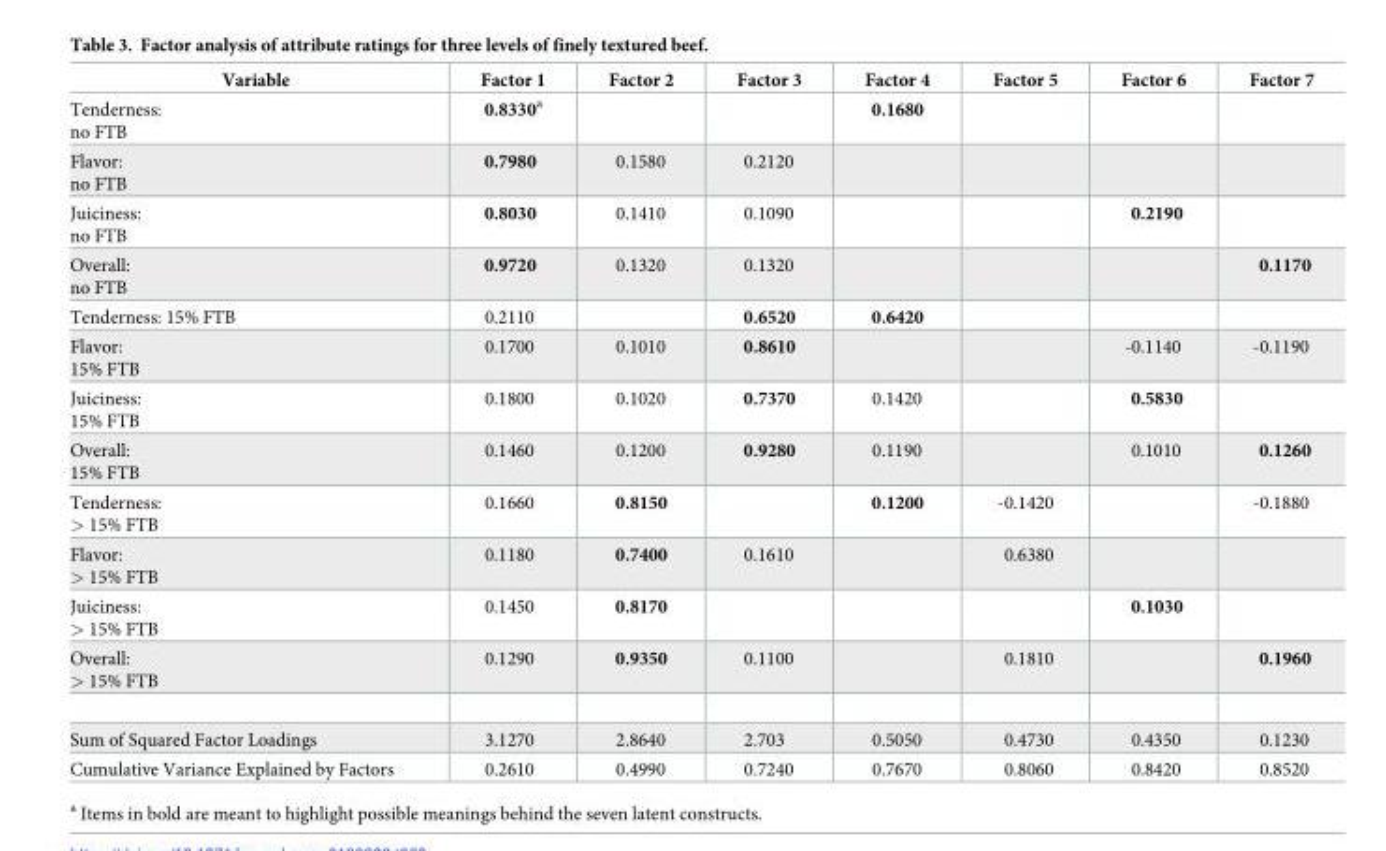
<table><thead><tr><td>Variable</td><td>Factor 1</td><td>Factor 2</td><td>Factor 3</td><td>Factor 4</td><td>Factor 5</td><td>Factor 6</td><td>Factor 7</td></tr></thead><tbody><tr><td>Tenderness: no FTB</td><td>0.8330<sup>a</sup></td><td></td><td></td><td>0.1680</td><td></td><td></td><td></td></tr><tr><td>Flavor: no FTB</td><td>0.7980</td><td>0.1580</td><td>0.2120</td><td></td><td></td><td></td><td></td></tr><tr><td>Juiciness: no FTB</td><td>0.8030</td><td>0.1410</td><td>0.1090</td><td></td><td></td><td>0.2190</td><td></td></tr><tr><td>Overall: no FTB</td><td>0.9720</td><td>0.1320</td><td>0.1320</td><td></td><td></td><td></td><td>0.1170</td></tr><tr><td>Tenderness: 15% FTB</td><td>0.2110</td><td></td><td>0.6520</td><td>0.6420</td><td></td><td></td><td></td></tr><tr><td>Flavor: 15% FTB</td><td>0.1700</td><td>0.1010</td><td>0.8610</td><td></td><td></td><td>-0.1140</td><td>-0.1190</td></tr><tr><td>Juiciness: 15% FTB</td><td>0.1800</td><td>0.1020</td><td>0.7370</td><td>0.1420</td><td></td><td>0.5830</td><td></td></tr><tr><td>Overall: 15% FTB</td><td>0.1460</td><td>0.1200</td><td>0.9280</td><td>0.1190</td><td></td><td>0.1010</td><td>0.1260</td></tr><tr><td>Tenderness: &gt; 15% FTB</td><td>0.1660</td><td>0.8150</td><td></td><td>0.1200</td><td>-0.1420</td><td></td><td>-0.1880</td></tr><tr><td>Flavor: &gt; 15% FTB</td><td>0.1180</td><td>0.7400</td><td>0.1610</td><td></td><td>0.6380</td><td></td><td></td></tr><tr><td>Juiciness: &gt; 15% FTB</td><td>0.1450</td><td>0.8170</td><td></td><td></td><td></td><td>0.1030</td><td></td></tr><tr><td>Overall: &gt; 15% FTB</td><td>0.1290</td><td>0.9350</td><td>0.1100</td><td></td><td>0.1810</td><td></td><td>0.1960</td></tr><tr><td>Sum of Squared Factor Loadings</td><td>3.1270</td><td>2.8640</td><td>2.703</td><td>0.5050</td><td>0.4730</td><td>0.4350</td><td>0.1230</td></tr><tr><td>Cumulative Variance Explained by Factors</td><td>0.2610</td><td>0.4990</td><td>0.7240</td><td>0.7670</td><td>0.8060</td><td>0.8420</td><td>0.8520</td></tr></tbody></table>